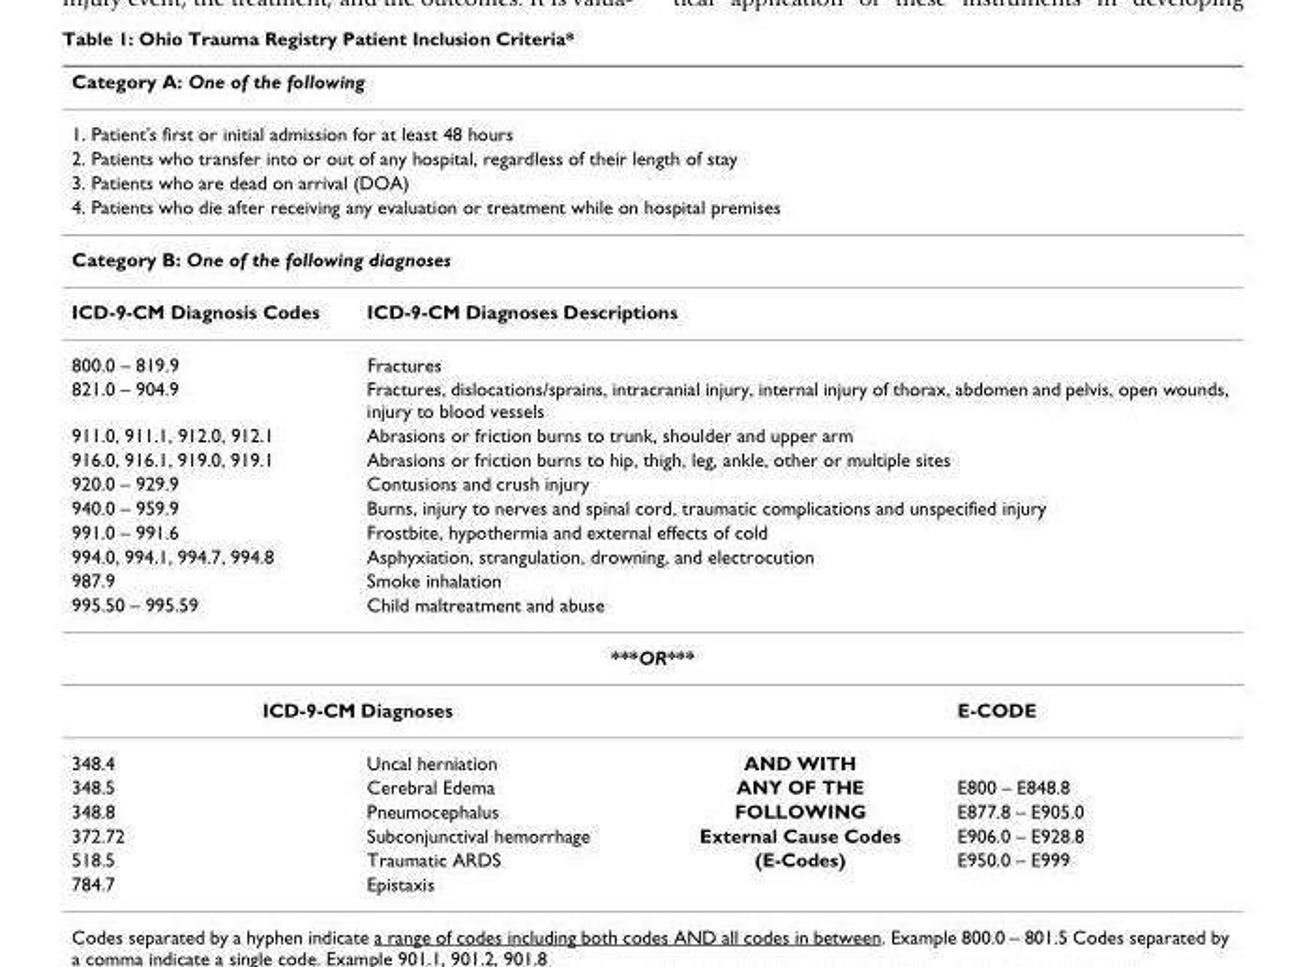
<table><thead><tr><td colspan="4">Category A: One of the following</td></tr></thead><tbody><tr><td colspan="4">1. Patient&#x27;s first or initial admission for at least 48 hours</td></tr><tr><td colspan="4">2. Patients who transfer into or out of any hospital, regardless of their length of stay</td></tr><tr><td colspan="4">3. Patients who are dead on arrival (DOA)</td></tr><tr><td colspan="4">4. Patients who die after receiving any evaluation or treatment while on hospital premises</td></tr><tr><td colspan="4">Category B: One of the following diagnoses</td></tr><tr><td>ICD-9-CM Diagnosis Codes</td><td colspan="3">ICD-9-CM Diagnoses Descriptions</td></tr><tr><td>800.0 – 819.9</td><td colspan="3">Fractures</td></tr><tr><td>821.0 – 904.9</td><td colspan="3">Fractures, dislocations/sprains, intracranial injury, internal injury of thorax, abdomen and pelvis, open wounds, injury to blood vessels</td></tr><tr><td>911.0, 911.1, 912.0, 912.1</td><td colspan="3">Abrasions or friction burns to trunk, shoulder and upper arm</td></tr><tr><td>916.0, 916.1, 919.0, 919.1</td><td colspan="3">Abrasions or friction burns to hip, thigh, leg, ankle, other or multiple sites</td></tr><tr><td>920.0 – 929.9</td><td colspan="3">Contusions and crush injury</td></tr><tr><td>940.0 – 959.9</td><td colspan="3">Burns, injury to nerves and spinal cord, traumatic complications and unspecified injury</td></tr><tr><td>991.0 – 991.6</td><td colspan="3">Frostbite, hypothermia and external effects of cold</td></tr><tr><td>994.0, 994.1, 994.7, 994.8</td><td colspan="3">Asphyxiation, strangulation, drowning, and electrocution</td></tr><tr><td>987.9</td><td colspan="3">Smoke inhalation</td></tr><tr><td>995.50 – 995.59</td><td colspan="3">Child maltreatment and abuse</td></tr><tr><td colspan="4">***OR***</td></tr><tr><td colspan="2">ICD-9-CM Diagnoses</td><td></td><td>E-CODE</td></tr><tr><td>348.4</td><td>Uncal herniation</td><td>AND WITH</td><td></td></tr><tr><td>348.5</td><td>Cerebral Edema</td><td>ANY OF THE</td><td>E800 – E848.8</td></tr><tr><td>348.8</td><td>Pneumocephalus</td><td>FOLLOWING</td><td>E877.8 – E905.0</td></tr><tr><td>372.72</td><td>Subconjunctival hemorrhage</td><td>External Cause Codes</td><td>E906.0 – E928.8</td></tr><tr><td>518.5</td><td>Traumatic ARDS</td><td>(E-Codes)</td><td>E950.0 – E999</td></tr><tr><td>784.7</td><td>Epistaxis</td><td></td><td></td></tr></tbody></table>